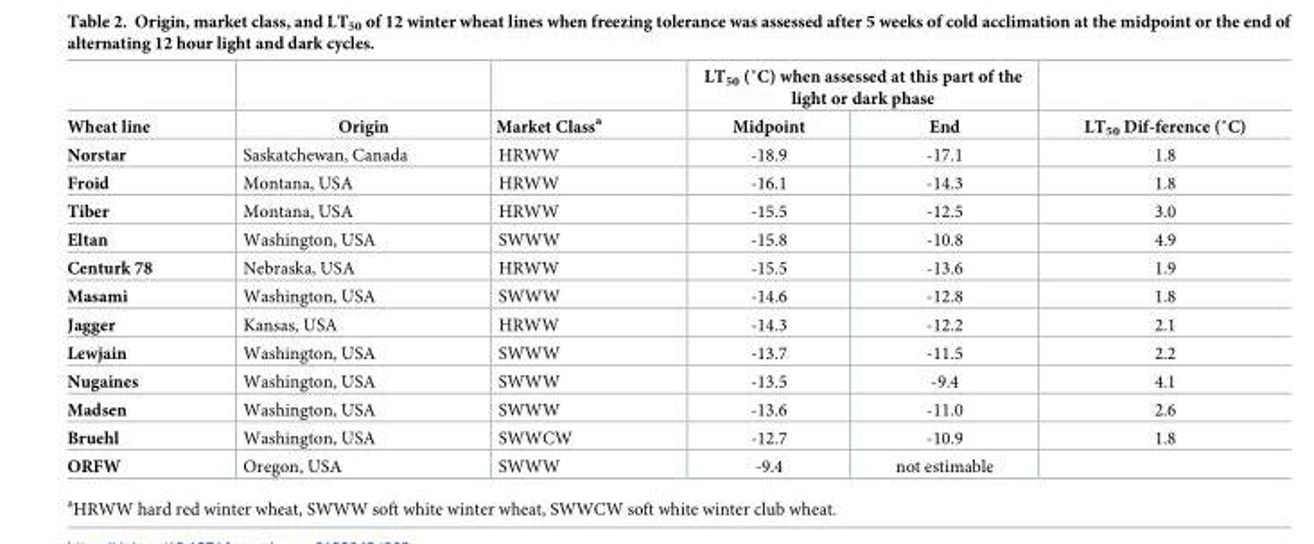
<table><thead><tr><td rowspan="2">Wheat line</td><td rowspan="2">Origin</td><td rowspan="2">Market Class<sup>a</sup></td><td colspan="2">LT50 (˚C) when assessed at this part of the light or dark phase</td><td rowspan="2">LT50 Dif-ference (˚C)</td></tr><tr><td>Midpoint</td><td>End</td></tr></thead><tbody><tr><td>Norstar</td><td>Saskatchewan, Canada</td><td>HRWW</td><td>-18.9</td><td>-17.1</td><td>1.8</td></tr><tr><td>Froid</td><td>Montana, USA</td><td>HRWW</td><td>-16.1</td><td>-14.3</td><td>1.8</td></tr><tr><td>Tiber</td><td>Montana, USA</td><td>HRWW</td><td>-15.5</td><td>-12.5</td><td>3.0</td></tr><tr><td>Eltan</td><td>Washington, USA</td><td>SWWW</td><td>-15.8</td><td>-10.8</td><td>4.9</td></tr><tr><td>Centurk 78</td><td>Nebraska, USA</td><td>HRWW</td><td>-15.5</td><td>-13.6</td><td>1.9</td></tr><tr><td>Masami</td><td>Washington, USA</td><td>SWWW</td><td>-14.6</td><td>-12.8</td><td>1.8</td></tr><tr><td>Jagger</td><td>Kansas, USA</td><td>HRWW</td><td>-14.3</td><td>-12.2</td><td>2.1</td></tr><tr><td>Lewjain</td><td>Washington, USA</td><td>SWWW</td><td>-13.7</td><td>-11.5</td><td>2.2</td></tr><tr><td>Nugaines</td><td>Washington, USA</td><td>SWWW</td><td>-13.5</td><td>-9.4</td><td>4.1</td></tr><tr><td>Madsen</td><td>Washington, USA</td><td>SWWW</td><td>-13.6</td><td>-11.0</td><td>2.6</td></tr><tr><td>Bruehl</td><td>Washington, USA</td><td>SWWCW</td><td>-12.7</td><td>-10.9</td><td>1.8</td></tr><tr><td>ORFW</td><td>Oregon, USA</td><td>SWWW</td><td>-9.4</td><td>not estimable</td><td></td></tr></tbody></table>